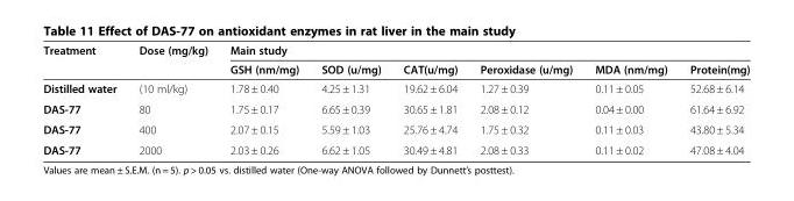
<table><thead><tr><td rowspan="2">Treatment</td><td rowspan="2">Dose (mg/kg)</td><td colspan="6">Main study</td></tr><tr><td>GSH (nm/mg)</td><td>SOD (u/mg)</td><td>CAT(u/mg)</td><td>Peroxidase (u/mg)</td><td>MDA (nm/mg)</td><td>Protein(mg)</td></tr></thead><tbody><tr><td>Distilled water</td><td>(10 ml/kg)</td><td>1.78 ± 0.40</td><td>4.25 ± 1.31</td><td>19.62 ± 6.04</td><td>1.27 ± 0.39</td><td>0.11 ± 0.05</td><td>52.68 ± 6.14</td></tr><tr><td>DAS-77</td><td>80</td><td>1.75 ± 0.17</td><td>6.65 ± 0.39</td><td>30.65 ± 1.81</td><td>2.08 ± 0.12</td><td>0.04 ± 0.00</td><td>61.64 ± 6.92</td></tr><tr><td>DAS-77</td><td>400</td><td>2.07 ± 0.15</td><td>5.59 ± 1.03</td><td>25.76 ± 4.74</td><td>1.75 ± 0.32</td><td>0.11 ± 0.03</td><td>43.80 ± 5.34</td></tr><tr><td>DAS-77</td><td>2000</td><td>2.03 ± 0.26</td><td>6.62 ± 1.05</td><td>30.49 ± 4.81</td><td>2.08 ± 0.33</td><td>0.11 ± 0.02</td><td>47.08 ± 4.04</td></tr></tbody></table>